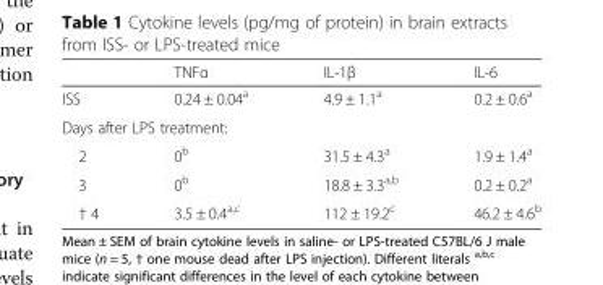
<table><thead><tr><td></td><td>TNFα</td><td>IL-1β</td><td>IL-6</td></tr></thead><tbody><tr><td>ISS</td><td>0.24 ± 0.04<sup>a</sup></td><td>4.9 ± 1.1<sup>a</sup></td><td>0.2 ± 0.6<sup>a</sup></td></tr><tr><td colspan="4">Days after LPS treatment:</td></tr><tr><td>2</td><td>0<sup>b</sup></td><td>31.5 ± 4.3<sup>a</sup></td><td>1.9 ± 1.4<sup>a</sup></td></tr><tr><td>3</td><td>0<sup>b</sup></td><td>18.8 ± 3.3<sup>a,b</sup></td><td>0.2 ± 0.2<sup>a</sup></td></tr><tr><td>† 4</td><td>3.5 ± 0.4<sup>a,c</sup></td><td>112 ± 19.2<sup>c</sup></td><td>46.2 ± 4.6<sup>b</sup></td></tr></tbody></table>